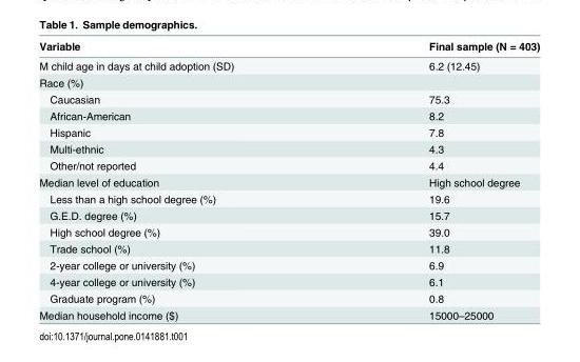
<table><thead><tr><td>Variable</td><td>Final sample (N = 403)</td></tr></thead><tbody><tr><td>M child age in days at child adoption (SD)</td><td>6.2 (12.45)</td></tr><tr><td colspan="2">Race (%)</td></tr><tr><td>Caucasian</td><td>75.3</td></tr><tr><td>African-American</td><td>8.2</td></tr><tr><td>Hispanic</td><td>7.8</td></tr><tr><td>Multi-ethnic</td><td>4.3</td></tr><tr><td>Other/not reported</td><td>4.4</td></tr><tr><td>Median level of education</td><td>High school degree</td></tr><tr><td>Less than a high school degree (%)</td><td>19.6</td></tr><tr><td>G.E.D. degree (%)</td><td>15.7</td></tr><tr><td>High school degree (%)</td><td>39.0</td></tr><tr><td>Trade school (%)</td><td>11.8</td></tr><tr><td>2-year college or university (%)</td><td>6.9</td></tr><tr><td>4-year college or university (%)</td><td>6.1</td></tr><tr><td>Graduate program (%)</td><td>0.8</td></tr><tr><td>Median household income ($)</td><td>15000–25000</td></tr></tbody></table>